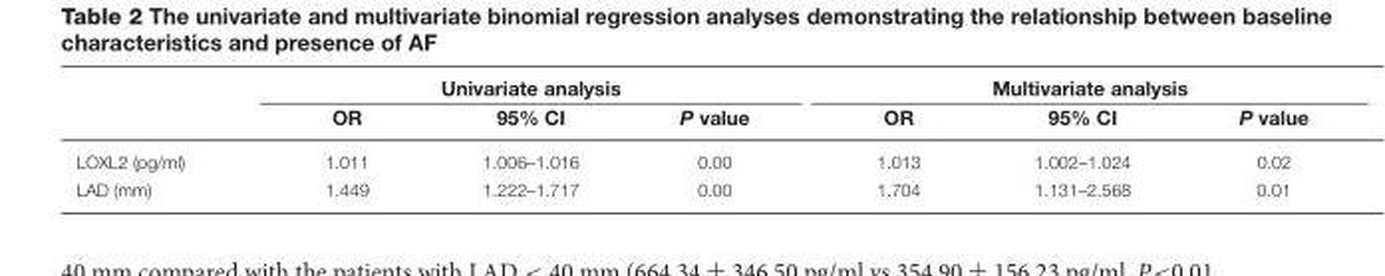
<table><thead><tr><td rowspan="2"></td><td colspan="3">Univariate analysis</td><td colspan="3">Multivariate analysis</td></tr><tr><td>OR</td><td>95% CI</td><td>P value</td><td>OR</td><td>95% CI</td><td>P value</td></tr></thead><tbody><tr><td>LOXL2 (pg/ml)</td><td>1.011</td><td>1.006–1.016</td><td>0.00</td><td>1.013</td><td>1.002–1.024</td><td>0.02</td></tr><tr><td>LAD (mm)</td><td>1.449</td><td>1.222–1.717</td><td>0.00</td><td>1.704</td><td>1.131–2.568</td><td>0.01</td></tr></tbody></table>